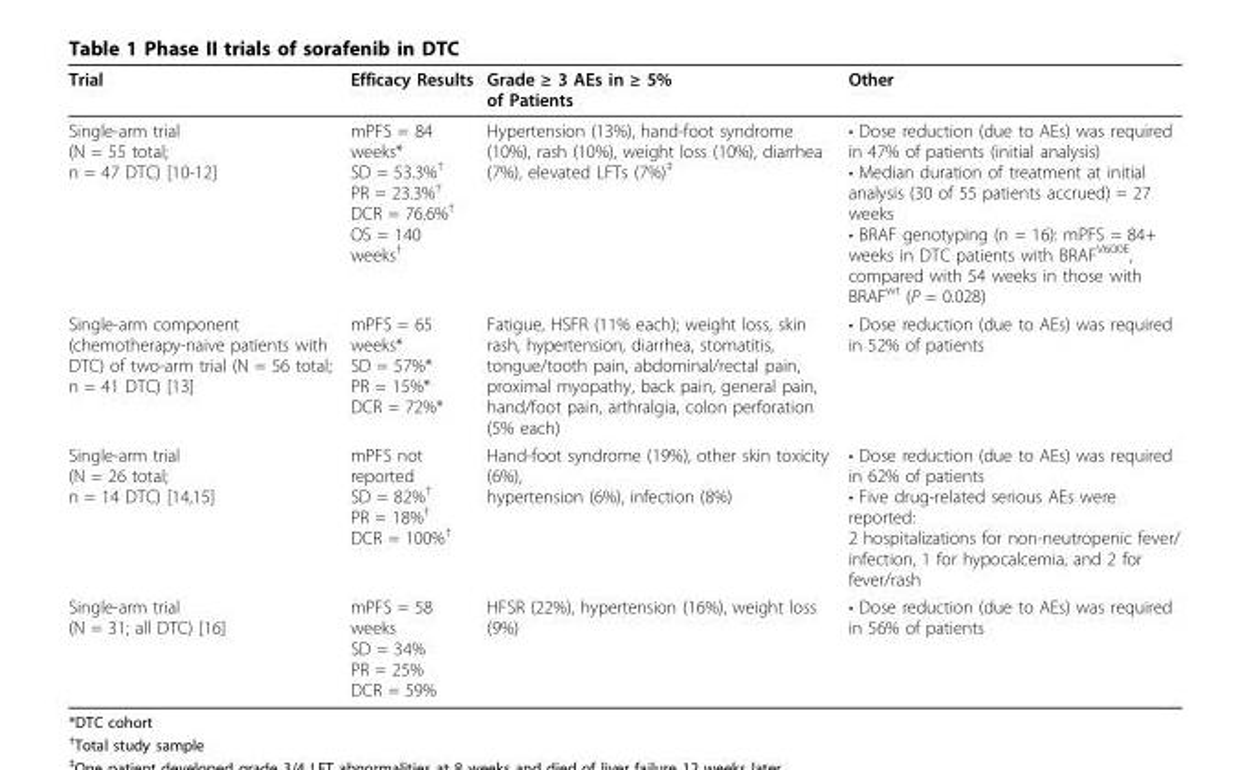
<table><thead><tr><td>Trial</td><td>Efficacy Results</td><td>Grade ≥ 3 AEs in ≥ 5% of Patients</td><td>Other</td></tr></thead><tbody><tr><td>Single-arm trial (N = 55 total; n = 47 DTC) [10-12]</td><td>mPFS = 84 weeks* SD = 53.3%<sup>†</sup> PR = 23.3%<sup>†</sup> DCR = 76.6%<sup>†</sup> OS = 140 weeks<sup>†</sup></td><td>Hypertension (13%), hand-foot syndrome (10%), rash (10%), weight loss (10%), diarrhea (7%), elevated LFTs (7%)<sup>‡</sup></td><td>• Dose reduction (due to AEs) was required in 47% of patients (initial analysis) • Median duration of treatment at initial analysis (30 of 55 patients accrued) = 27 weeks • BRAF genotyping (n = 16): mPFS = 84+ weeks in DTC patients with BRAF<sup>V600E</sup>, compared with 54 weeks in those with BRAF<sup>wt</sup> (P = 0.028)</td></tr><tr><td>Single-arm component (chemotherapy-naive patients with DTC) of two-arm trial (N = 56 total; n = 41 DTC) [13]</td><td>mPFS = 65 weeks* SD = 57%* PR = 15%* DCR = 72%*</td><td>Fatigue, HSFR (11% each); weight loss, skin rash, hypertension, diarrhea, stomatitis, tongue/tooth pain, abdominal/rectal pain, proximal myopathy, back pain, general pain, hand/foot pain, arthralgia, colon perforation (5% each)</td><td>• Dose reduction (due to AEs) was required in 52% of patients</td></tr><tr><td>Single-arm trial (N = 26 total; n = 14 DTC) [14,15]</td><td>mPFS not reported SD = 82%<sup>†</sup> PR = 18%<sup>†</sup> DCR = 100%<sup>†</sup></td><td>Hand-foot syndrome (19%), other skin toxicity (6%), hypertension (6%), infection (8%)</td><td>• Dose reduction (due to AEs) was required in 62% of patients • Five drug-related serious AEs were reported: 2 hospitalizations for non-neutropenic fever/ infection, 1 for hypocalcemia, and 2 for fever/rash</td></tr><tr><td>Single-arm trial (N = 31; all DTC) [16]</td><td>mPFS = 58 weeks SD = 34% PR = 25% DCR = 59%</td><td>HFSR (22%), hypertension (16%), weight loss (9%)</td><td>• Dose reduction (due to AEs) was required in 56% of patients</td></tr></tbody></table>